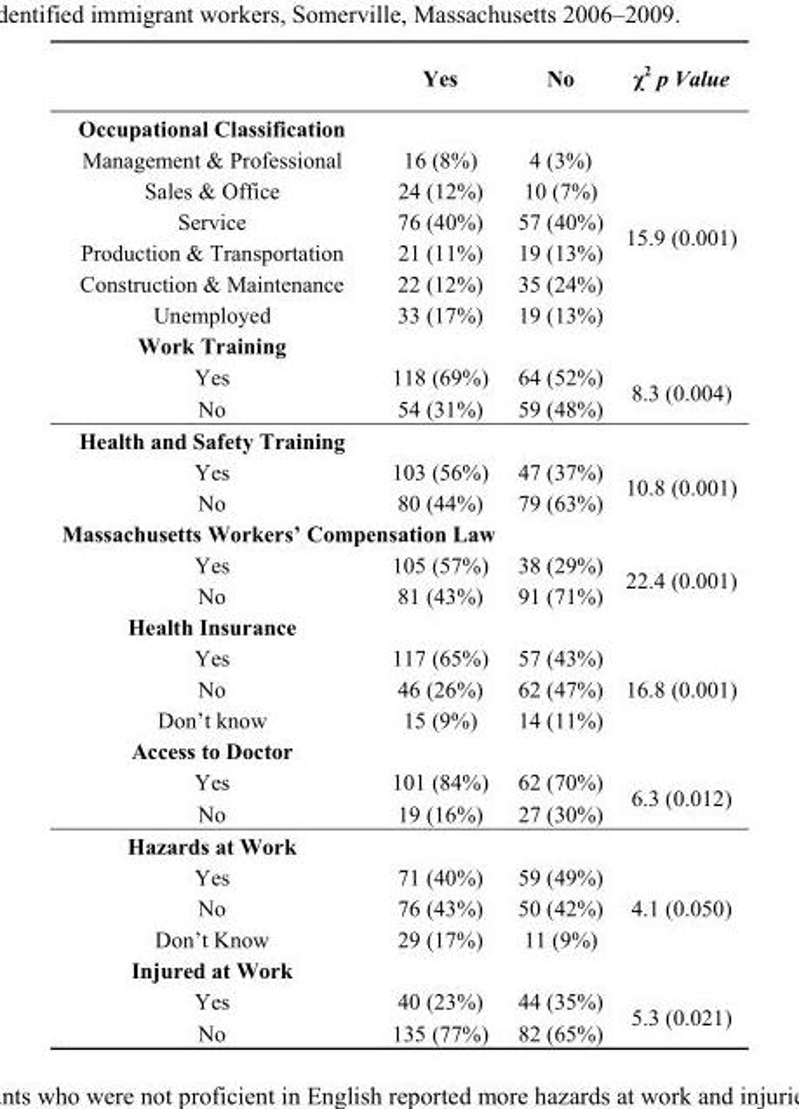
<table><thead><tr><td></td><td>Yes</td><td>No</td><td>χ<sup>2</sup> p Value</td></tr></thead><tbody><tr><td colspan="4">Occupational Classification</td></tr><tr><td>Management &amp; Professional</td><td>16 (8%)</td><td>4 (3%)</td><td rowspan="6">15.9 (0.001)</td></tr><tr><td>Sales &amp; Office</td><td>24 (12%)</td><td>10 (7%)</td></tr><tr><td>Service</td><td>76 (40%)</td><td>57 (40%)</td></tr><tr><td>Production &amp; Transportation</td><td>21 (11%)</td><td>19 (13%)</td></tr><tr><td>Construction &amp; Maintenance</td><td>22 (12%)</td><td>35 (24%)</td></tr><tr><td>Unemployed</td><td>33 (17%)</td><td>19 (13%)</td></tr><tr><td colspan="4">Work Training</td></tr><tr><td>Yes</td><td>118 (69%)</td><td>64 (52%)</td><td rowspan="2">8.3 (0.004)</td></tr><tr><td>No</td><td>54 (31%)</td><td>59 (48%)</td></tr><tr><td colspan="4">Health and Safety Training</td></tr><tr><td>Yes</td><td>103 (56%)</td><td>47 (37%)</td><td rowspan="2">10.8 (0.001)</td></tr><tr><td>No</td><td>80 (44%)</td><td>79 (63%)</td></tr><tr><td colspan="4">Massachusetts Workers’ Compensation Law</td></tr><tr><td>Yes</td><td>105 (57%)</td><td>38 (29%)</td><td rowspan="2">22.4 (0.001)</td></tr><tr><td>No</td><td>81 (43%)</td><td>91 (71%)</td></tr><tr><td colspan="4">Health Insurance</td></tr><tr><td>Yes</td><td>117 (65%)</td><td>57 (43%)</td><td rowspan="3">16.8 (0.001)</td></tr><tr><td>No</td><td>46 (26%)</td><td>62 (47%)</td></tr><tr><td>Don’t know</td><td>15 (9%)</td><td>14 (11%)</td></tr><tr><td colspan="4">Access to Doctor</td></tr><tr><td>Yes</td><td>101 (84%)</td><td>62 (70%)</td><td rowspan="2">6.3 (0.012)</td></tr><tr><td>No</td><td>19 (16%)</td><td>27 (30%)</td></tr><tr><td colspan="4">Hazards at Work</td></tr><tr><td>Yes</td><td>71 (40%)</td><td>59 (49%)</td><td rowspan="3">4.1 (0.050)</td></tr><tr><td>No</td><td>76 (43%)</td><td>50 (42%)</td></tr><tr><td>Don’t Know</td><td>29 (17%)</td><td>11 (9%)</td></tr><tr><td colspan="4">Injured at Work</td></tr><tr><td>Yes</td><td>40 (23%)</td><td>44 (35%)</td><td rowspan="2">5.3 (0.021)</td></tr><tr><td>No</td><td>135 (77%)</td><td>82 (65%)</td></tr></tbody></table>